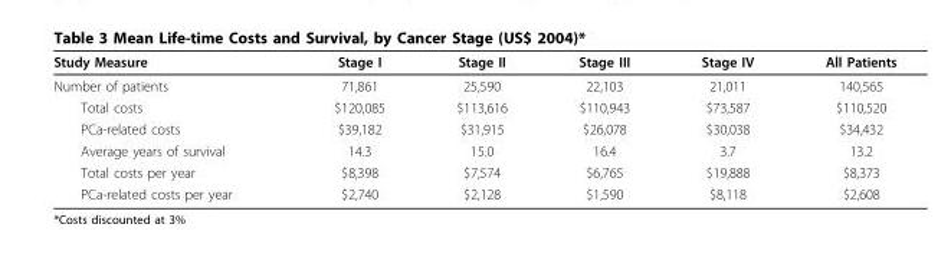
<table><thead><tr><td>Study Measure</td><td>Stage I</td><td>Stage II</td><td>Stage III</td><td>Stage IV</td><td>All Patients</td></tr></thead><tbody><tr><td>Number of patients</td><td>71,861</td><td>25,590</td><td>22,103</td><td>21,011</td><td>140,565</td></tr><tr><td>Total costs</td><td>$120,085</td><td>$113,616</td><td>$110,943</td><td>$73,587</td><td>$110,520</td></tr><tr><td>PCa-related costs</td><td>$39,182</td><td>$31,915</td><td>$26,078</td><td>$30,038</td><td>$34,432</td></tr><tr><td>Average years of survival</td><td>14.3</td><td>15.0</td><td>16.4</td><td>3.7</td><td>13.2</td></tr><tr><td>Total costs per year</td><td>$8,398</td><td>$7,574</td><td>$6,765</td><td>$19,888</td><td>$8,373</td></tr><tr><td>PCa-related costs per year</td><td>$2,740</td><td>$2,128</td><td>$1,590</td><td>$8,118</td><td>$2,608</td></tr></tbody></table>